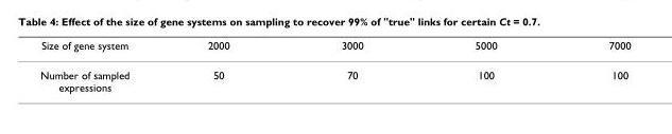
<table><thead><tr><td>Size of gene system</td><td>2000</td><td>3000</td><td>5000</td><td>7000</td></tr></thead><tbody><tr><td>Number of sampled expressions</td><td>50</td><td>70</td><td>100</td><td>100</td></tr></tbody></table>